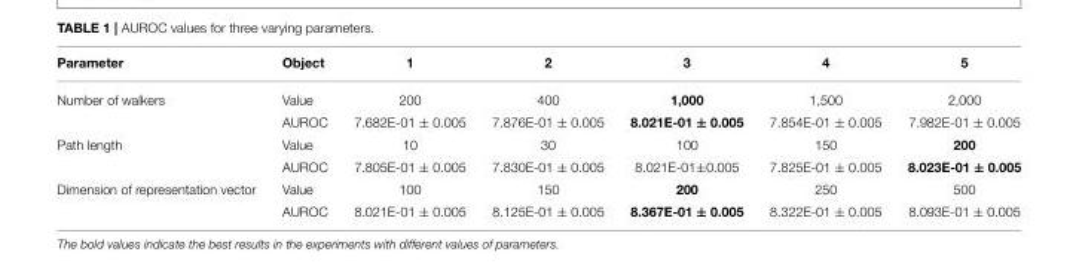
<table><thead><tr><td>Parameter</td><td>Object</td><td>1</td><td>2</td><td>3</td><td>4</td><td>5</td></tr></thead><tbody><tr><td rowspan="2">Number of walkers</td><td>Value</td><td>200</td><td>400</td><td>1,000</td><td>1,500</td><td>2,000</td></tr><tr><td>AUROC</td><td>7.682E-01 ± 0.005</td><td>7.876E-01 ± 0.005</td><td>8.021E-01 ± 0.005</td><td>7.854E-01 ± 0.005</td><td>7.982E-01 ± 0.005</td></tr><tr><td rowspan="2">Path length</td><td>Value</td><td>10</td><td>30</td><td>100</td><td>150</td><td>200</td></tr><tr><td>AUROC</td><td>7.805E-01 ± 0.005</td><td>7.830E-01 ± 0.005</td><td>8.021E-01±0.005</td><td>7.825E-01 ± 0.005</td><td>8.023E-01 ± 0.005</td></tr><tr><td rowspan="2">Dimension of representation vector</td><td>Value</td><td>100</td><td>150</td><td>200</td><td>250</td><td>500</td></tr><tr><td>AUROC</td><td>8.021E-01 ± 0.005</td><td>8.125E-01 ± 0.005</td><td>8.367E-01 ± 0.005</td><td>8.322E-01 ± 0.005</td><td>8.093E-01 ± 0.005</td></tr></tbody></table>